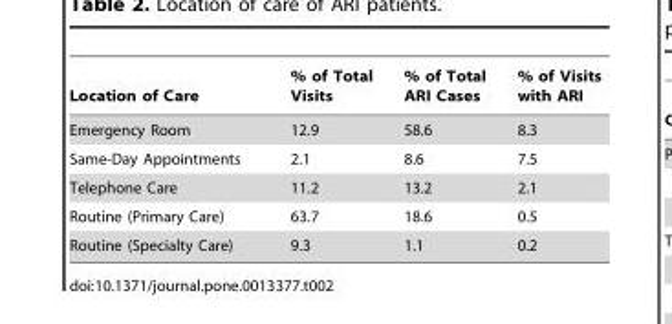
<table><thead><tr><td>Location of Care</td><td>% of Total Visits</td><td>% of Total ARI Cases</td><td>% of Visits with ARI</td></tr></thead><tbody><tr><td>Emergency Room</td><td>12.9</td><td>58.6</td><td>8.3</td></tr><tr><td>Same-Day Appointments</td><td>2.1</td><td>8.6</td><td>7.5</td></tr><tr><td>Telephone Care</td><td>11.2</td><td>13.2</td><td>2.1</td></tr><tr><td>Routine (Primary Care)</td><td>63.7</td><td>18.6</td><td>0.5</td></tr><tr><td>Routine (Specialty Care)</td><td>9.3</td><td>1.1</td><td>0.2</td></tr></tbody></table>